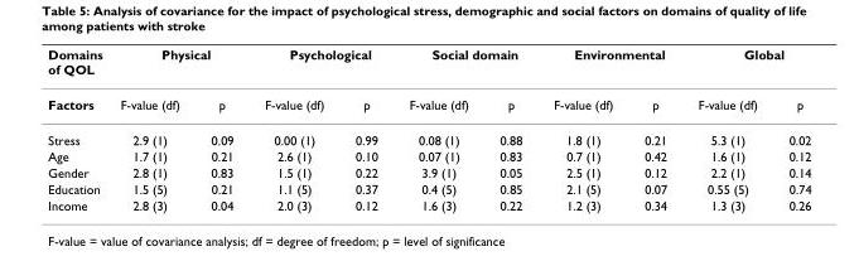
<table><thead><tr><td rowspan="2">Domains of QOL Factors</td><td colspan="2">Physical</td><td colspan="2">Psychological</td><td colspan="2">Social domain</td><td colspan="2">Environmental</td><td colspan="2">Global</td></tr><tr><td>F-value (df)</td><td>p</td><td>F-value (df)</td><td>p</td><td>F-value (df)</td><td>p</td><td>F-value (df)</td><td>p</td><td>F-value (df)</td><td>p</td></tr></thead><tbody><tr><td>Stress</td><td>2.9 (1)</td><td>0.09</td><td>0.00 (1)</td><td>0.99</td><td>0.08 (1)</td><td>0.88</td><td>1.8 (1)</td><td>0.21</td><td>5.3 (1)</td><td>0.02</td></tr><tr><td>Age</td><td>1.7 (1)</td><td>0.21</td><td>2.6 (1)</td><td>0.10</td><td>0.07 (1)</td><td>0.83</td><td>0.7 (1)</td><td>0.42</td><td>1.6 (1)</td><td>0.12</td></tr><tr><td>Gender</td><td>2.8 (1)</td><td>0.83</td><td>1.5 (1)</td><td>0.22</td><td>3.9 (1)</td><td>0.05</td><td>2.5 (1)</td><td>0.12</td><td>2.2 (1)</td><td>0.14</td></tr><tr><td>Education</td><td>1.5 (5)</td><td>0.21</td><td>1.1 (5)</td><td>0.37</td><td>0.4 (5)</td><td>0.85</td><td>2.1 (5)</td><td>0.07</td><td>0.55 (5)</td><td>0.74</td></tr><tr><td>Income</td><td>2.8 (3)</td><td>0.04</td><td>2.0 (3)</td><td>0.12</td><td>1.6 (3)</td><td>0.22</td><td>1.2 (3)</td><td>0.34</td><td>1.3 (3)</td><td>0.26</td></tr></tbody></table>